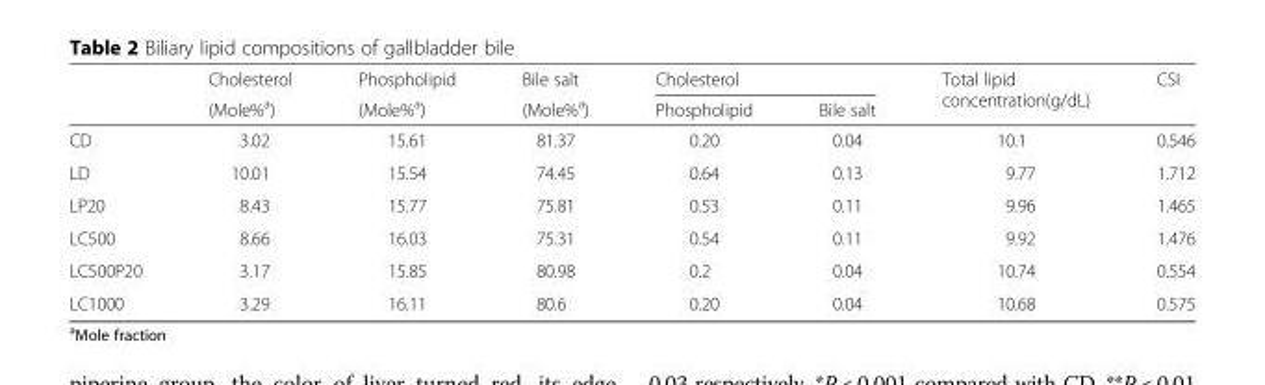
<table><thead><tr><td rowspan="2"></td><td rowspan="2">Cholesterol (Mole%<sup>a</sup>)</td><td rowspan="2">Phospholipid (Mole%a)</td><td rowspan="2">Bile salt (Mole%a)</td><td colspan="2">Cholesterol</td><td rowspan="2">Total lipid concentration(g/dL)</td><td rowspan="2">CSI</td></tr><tr><td>Phospholipid</td><td>Bile salt</td></tr></thead><tbody><tr><td>CD</td><td>3.02</td><td>15.61</td><td>81.37</td><td>0.20</td><td>0.04</td><td>10.1</td><td>0.546</td></tr><tr><td>LD</td><td>10.01</td><td>15.54</td><td>74.45</td><td>0.64</td><td>0.13</td><td>9.77</td><td>1.712</td></tr><tr><td>LP20</td><td>8.43</td><td>15.77</td><td>75.81</td><td>0.53</td><td>0.11</td><td>9.96</td><td>1.465</td></tr><tr><td>LC500</td><td>8.66</td><td>16.03</td><td>75.31</td><td>0.54</td><td>0.11</td><td>9.92</td><td>1.476</td></tr><tr><td>LC500P20</td><td>3.17</td><td>15.85</td><td>80.98</td><td>0.2</td><td>0.04</td><td>10.74</td><td>0.554</td></tr><tr><td>LC1000</td><td>3.29</td><td>16.11</td><td>80.6</td><td>0.20</td><td>0.04</td><td>10.68</td><td>0.575</td></tr></tbody></table>